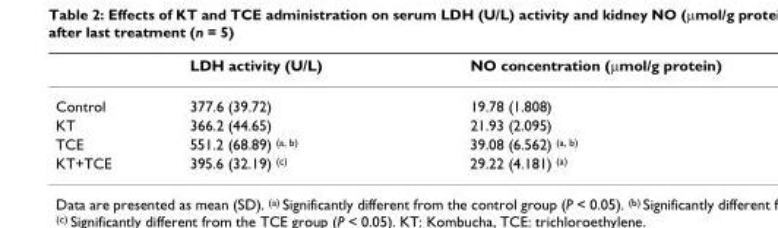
<table><thead><tr><td></td><td>LDH activity (U/L)</td><td>NO concentration (μmol/g protein)</td></tr></thead><tbody><tr><td>Control</td><td>377.6 (39.72)</td><td>19.78 (1.808)</td></tr><tr><td>KT</td><td>366.2 (44.65)</td><td>21.93 (2.095)</td></tr><tr><td>TCE</td><td>551.2 (68.89) <sup>(a, b)</sup></td><td>39.08 (6.562) <sup>(a, b)</sup></td></tr><tr><td>KT+TCE</td><td>395.6 (32.19) <sup>(c)</sup></td><td>29.22 (4.181) <sup>(a)</sup></td></tr></tbody></table>